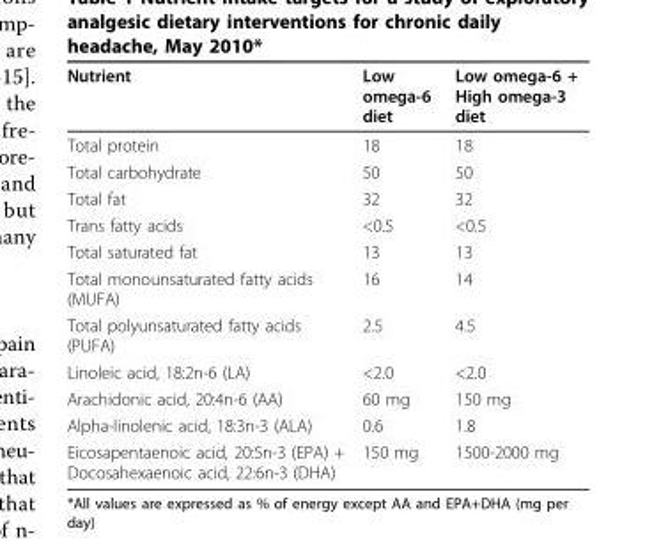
<table><thead><tr><td>Nutrient</td><td>Low omega-6 diet</td><td>Low omega-6 + High omega-3 diet</td></tr></thead><tbody><tr><td>Total protein</td><td>18</td><td>18</td></tr><tr><td>Total carbohydrate</td><td>50</td><td>50</td></tr><tr><td>Total fat</td><td>32</td><td>32</td></tr><tr><td>Trans fatty acids</td><td>&lt;0.5</td><td>&lt;0.5</td></tr><tr><td>Total saturated fat</td><td>13</td><td>13</td></tr><tr><td>Total monounsaturated fatty acids (MUFA)</td><td>16</td><td>14</td></tr><tr><td>Total polyunsaturated fatty acids (PUFA)</td><td>2.5</td><td>4.5</td></tr><tr><td>Linoleic acid, 18:2n-6 (LA)</td><td>&lt;2.0</td><td>&lt;2.0</td></tr><tr><td>Arachidonic acid, 20:4n-6 (AA)</td><td>60 mg</td><td>150 mg</td></tr><tr><td>Alpha-linolenic acid, 18:3n-3 (ALA)</td><td>0.6</td><td>1.8</td></tr><tr><td>Eicosapentaenoic acid, 20:5n-3 (EPA) + Docosahexaenoic acid, 22:6n-3 (DHA)</td><td>150 mg</td><td>1500-2000 mg</td></tr></tbody></table>